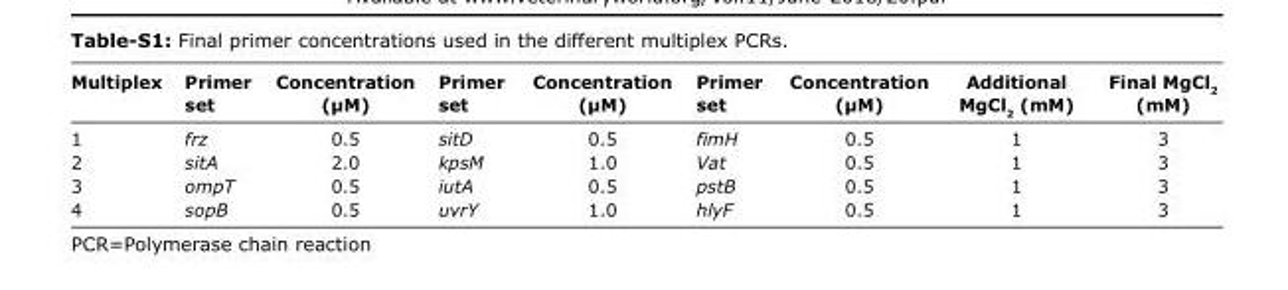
<table><thead><tr><td>Multiplex</td><td>Primer set</td><td>Concentration (µM)</td><td>Primer set</td><td>Concentration (µM)</td><td>Primer set</td><td>Concentration (µM)</td><td>Additional MgCl<sub>2</sub> (mM)</td><td>Final MgCl<sub>2</sub> (mM)</td></tr></thead><tbody><tr><td>1</td><td>frz</td><td>0.5</td><td>sitD</td><td>0.5</td><td>fimH</td><td>0.5</td><td>1</td><td>3</td></tr><tr><td>2</td><td>sitA</td><td>2.0</td><td>kpsM</td><td>1.0</td><td>Vat</td><td>0.5</td><td>1</td><td>3</td></tr><tr><td>3</td><td>ompT</td><td>0.5</td><td>iutA</td><td>0.5</td><td>pstB</td><td>0.5</td><td>1</td><td>3</td></tr><tr><td>4</td><td>sopB</td><td>0.5</td><td>uvrY</td><td>1.0</td><td>hlyF</td><td>0.5</td><td>1</td><td>3</td></tr></tbody></table>